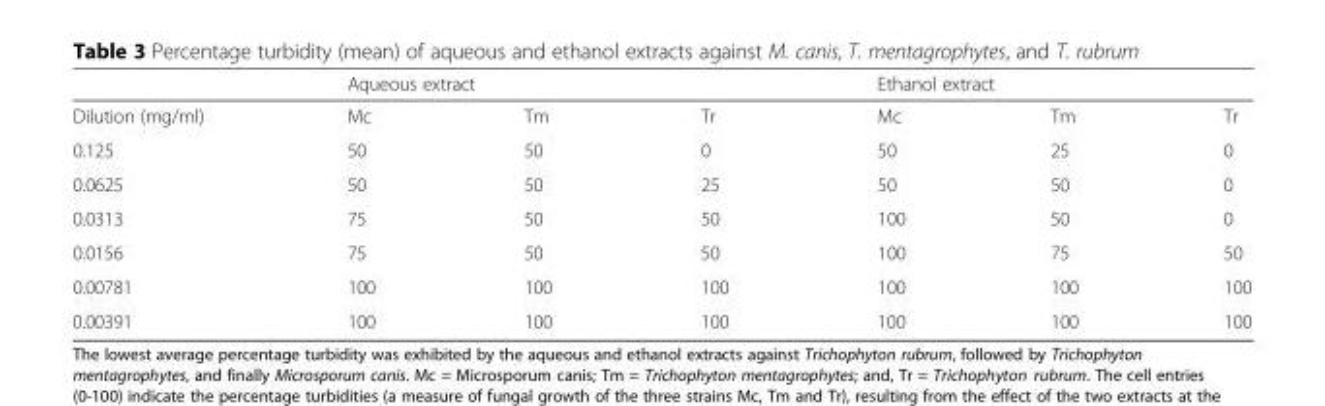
<table><thead><tr><td rowspan="2">Dilution (mg/ml)</td><td colspan="3">Aqueous extract</td><td colspan="3">Ethanol extract</td></tr><tr><td>Mc</td><td>Tm</td><td>Tr</td><td>Mc</td><td>Tm</td><td>Tr</td></tr></thead><tbody><tr><td>0.125</td><td>50</td><td>50</td><td>0</td><td>50</td><td>25</td><td>0</td></tr><tr><td>0.0625</td><td>50</td><td>50</td><td>25</td><td>50</td><td>50</td><td>0</td></tr><tr><td>0.0313</td><td>75</td><td>50</td><td>50</td><td>100</td><td>50</td><td>0</td></tr><tr><td>0.0156</td><td>75</td><td>50</td><td>50</td><td>100</td><td>75</td><td>50</td></tr><tr><td>0.00781</td><td>100</td><td>100</td><td>100</td><td>100</td><td>100</td><td>100</td></tr><tr><td>0.00391</td><td>100</td><td>100</td><td>100</td><td>100</td><td>100</td><td>100</td></tr></tbody></table>